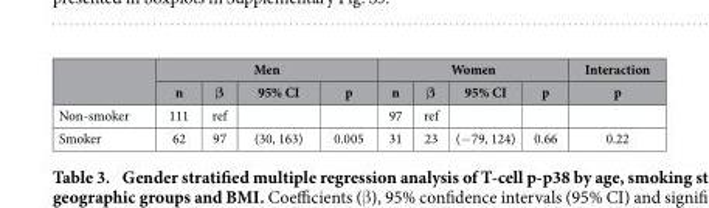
<table><thead><tr><td rowspan="2"></td><td colspan="4">Men</td><td colspan="4">Women</td><td rowspan="2">Interaction p</td></tr><tr><td>n</td><td>β</td><td>95% CI</td><td>p</td><td>n</td><td>β</td><td>95% CI</td><td>p</td></tr></thead><tbody><tr><td>Non-smoker</td><td>111</td><td>ref</td><td></td><td></td><td>97</td><td>ref</td><td></td><td></td><td></td></tr><tr><td>Smoker</td><td>62</td><td>97</td><td>(30, 163)</td><td>0.005</td><td>31</td><td>23</td><td>(− 79, 124)</td><td>0.66</td><td>0.22</td></tr></tbody></table>